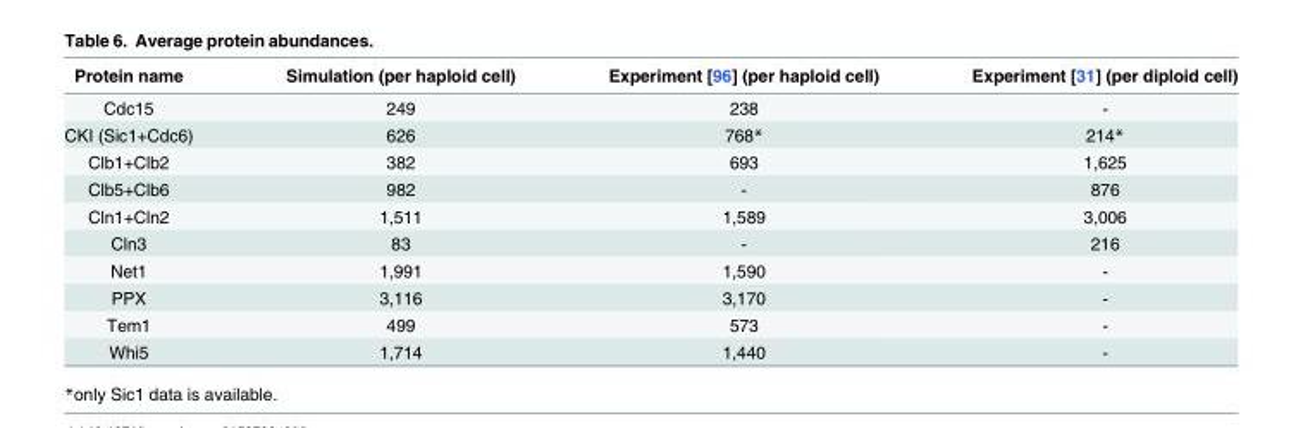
<table><thead><tr><td>Protein name</td><td>Simulation (per haploid cell)</td><td>Experiment [96] (per haploid cell)</td><td>Experiment [31] (per diploid cell)</td></tr></thead><tbody><tr><td>Cdc15</td><td>249</td><td>238</td><td>-</td></tr><tr><td>CKI (Sic1+Cdc6)</td><td>626</td><td>768*</td><td>214*</td></tr><tr><td>Clb1+Clb2</td><td>382</td><td>693</td><td>1,625</td></tr><tr><td>Clb5+Clb6</td><td>982</td><td>-</td><td>876</td></tr><tr><td>Cln1+Cln2</td><td>1,511</td><td>1,589</td><td>3,006</td></tr><tr><td>Cln3</td><td>83</td><td>-</td><td>216</td></tr><tr><td>Net1</td><td>1,991</td><td>1,590</td><td>-</td></tr><tr><td>PPX</td><td>3,116</td><td>3,170</td><td>-</td></tr><tr><td>Tem1</td><td>499</td><td>573</td><td>-</td></tr><tr><td>Whi5</td><td>1,714</td><td>1,440</td><td>-</td></tr></tbody></table>